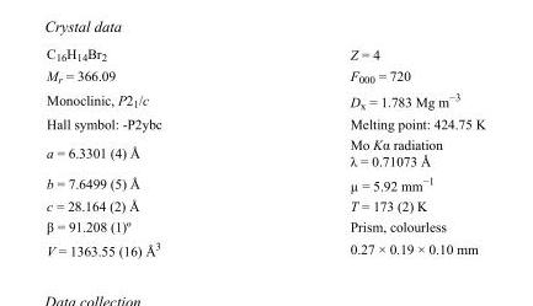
<table><tbody><tr><td>C<sub>16</sub>H<sub>14</sub>Br<sub>2</sub></td><td>Z = 4</td></tr><tr><td>M<sub>r</sub> = 366.09</td><td>F<sub>000</sub> = 720</td></tr><tr><td>Monoclinic, P2<sub>1</sub>/c</td><td>D<sub>x</sub> = 1.783 Mg m<sup>−3</sup></td></tr><tr><td>Hall symbol: -P2ybc</td><td>Melting point: 424.75 K</td></tr><tr><td>a = 6.3301 (4) Å</td><td>Mo Kα radiation λ = 0.71073 Å</td></tr><tr><td>b = 7.6499 (5) Å</td><td>µ = 5.92 mm<sup>−1</sup></td></tr><tr><td>c = 28.164 (2) Å</td><td>T = 173 (2) K</td></tr><tr><td>β = 91.208 (1)º</td><td>Prism, colourless</td></tr><tr><td>V = 1363.55 (16) Å<sup>3</sup></td><td>0.27 × 0.19 × 0.10 mm</td></tr></tbody></table>